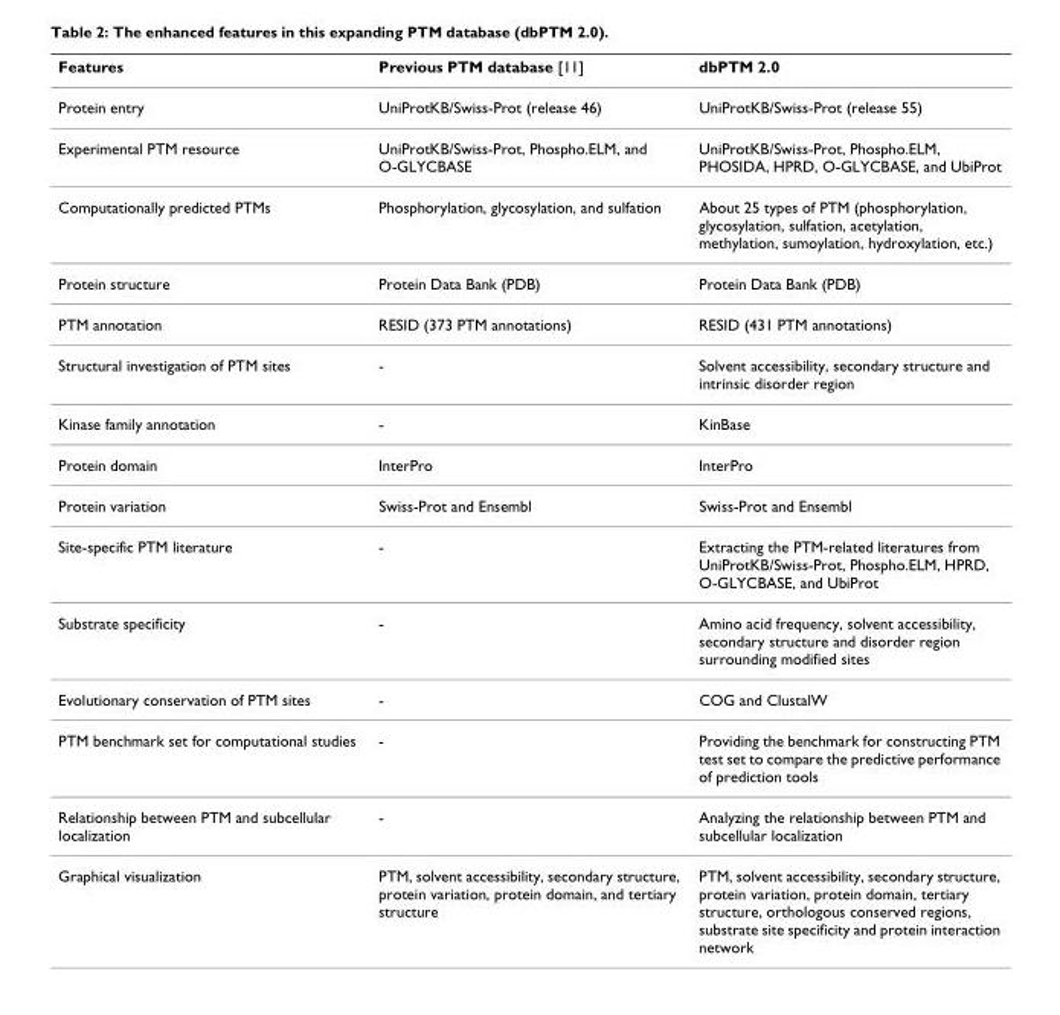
<table><thead><tr><td>Features</td><td>Previous PTM database [11]</td><td>dbPTM 2.0</td></tr></thead><tbody><tr><td>Protein entry</td><td>UniProtKB/Swiss-Prot (release 46)</td><td>UniProtKB/Swiss-Prot (release 55)</td></tr><tr><td>Experimental PTM resource</td><td>UniProtKB/Swiss-Prot, Phospho.ELM, and O-GLYCBASE</td><td>UniProtKB/Swiss-Prot, Phospho.ELM, PHOSIDA, HPRD, O-GLYCBASE, and UbiProt</td></tr><tr><td>Computationally predicted PTMs</td><td>Phosphorylation, glycosylation, and sulfation</td><td>About 25 types of PTM (phosphorylation, glycosylation, sulfation, acetylation, methylation, sumoylation, hydroxylation, etc.)</td></tr><tr><td>Protein structure</td><td>Protein Data Bank (PDB)</td><td>Protein Data Bank (PDB)</td></tr><tr><td>PTM annotation</td><td>RESID (373 PTM annotations)</td><td>RESID (431 PTM annotations)</td></tr><tr><td>Structural investigation of PTM sites</td><td>-</td><td>Solvent accessibility, secondary structure and intrinsic disorder region</td></tr><tr><td>Kinase family annotation</td><td>-</td><td>KinBase</td></tr><tr><td>Protein domain</td><td>InterPro</td><td>InterPro</td></tr><tr><td>Protein variation</td><td>Swiss-Prot and Ensembl</td><td>Swiss-Prot and Ensembl</td></tr><tr><td>Site-specific PTM literature</td><td>-</td><td>Extracting the PTM-related literatures from UniProtKB/Swiss-Prot, Phospho.ELM, HPRD, O-GLYCBASE, and UbiProt</td></tr><tr><td>Substrate specificity</td><td>-</td><td>Amino acid frequency, solvent accessibility, secondary structure and disorder region surrounding modified sites</td></tr><tr><td>Evolutionary conservation of PTM sites</td><td>-</td><td>COG and ClustalW</td></tr><tr><td>PTM benchmark set for computational studies</td><td>-</td><td>Providing the benchmark for constructing PTM test set to compare the predictive performance of prediction tools</td></tr><tr><td>Relationship between PTM and subcellular localization</td><td>-</td><td>Analyzing the relationship between PTM and subcellular localization</td></tr><tr><td>Graphical visualization</td><td>PTM, solvent accessibility, secondary structure, protein variation, protein domain, and tertiary structure</td><td>PTM, solvent accessibility, secondary structure, protein variation, protein domain, tertiary structure, orthologous conserved regions, substrate site specificity and protein interaction network</td></tr></tbody></table>